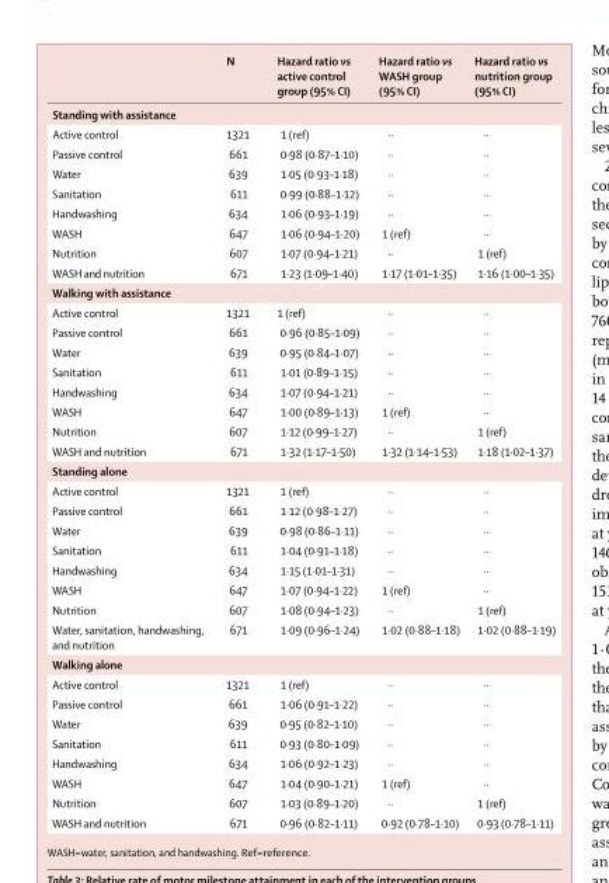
<table><thead><tr><td></td><td>N</td><td>Hazard ratio vs active control group (95% CI)</td><td>Hazard ratio vs WASH group (95% CI)</td><td>Hazard ratio vs nutrition group (95% CI)</td></tr></thead><tbody><tr><td colspan="5">Standing with assistance</td></tr><tr><td>Active control</td><td>1321</td><td>1 (ref)</td><td>··</td><td>··</td></tr><tr><td>Passive control</td><td>661</td><td>0·98 (0·87–1·10)</td><td>··</td><td>··</td></tr><tr><td>Water</td><td>639</td><td>1·05 (0·93–1·18)</td><td>··</td><td>··</td></tr><tr><td>Sanitation</td><td>611</td><td>0·99 (0·88–1·12)</td><td>··</td><td>··</td></tr><tr><td>Handwashing</td><td>634</td><td>1·06 (0·93–1·19)</td><td>··</td><td>··</td></tr><tr><td>WASH</td><td>647</td><td>1·06 (0·94–1·20)</td><td>1 (ref)</td><td>··</td></tr><tr><td>Nutrition</td><td>607</td><td>1·07 (0·94–1·21)</td><td>··</td><td>1 (ref)</td></tr><tr><td>WASH and nutrition</td><td>671</td><td>1·23 (1·09–1·40)</td><td>1·17 (1·01–1·35)</td><td>1·16 (1·00–1·35)</td></tr><tr><td colspan="5">Walking with assistance</td></tr><tr><td>Active control</td><td>1321</td><td>1 (ref)</td><td>··</td><td>··</td></tr><tr><td>Passive control</td><td>661</td><td>0·96 (0·85–1·09)</td><td>··</td><td>··</td></tr><tr><td>Water</td><td>639</td><td>0·95 (0·84–1·07)</td><td>··</td><td>··</td></tr><tr><td>Sanitation</td><td>611</td><td>1·01 (0·89–1·15)</td><td>··</td><td>··</td></tr><tr><td>Handwashing</td><td>634</td><td>1·07 (0·94–1·21)</td><td>··</td><td>··</td></tr><tr><td>WASH</td><td>647</td><td>1·00 (0·89–1·13)</td><td>1 (ref)</td><td>··</td></tr><tr><td>Nutrition</td><td>607</td><td>1·12 (0·99–1·27)</td><td>··</td><td>1 (ref)</td></tr><tr><td>WASH and nutrition</td><td>671</td><td>1·32 (1·17–1·50)</td><td>1·32 (1·14–1·53)</td><td>1·18 (1·02–1·37)</td></tr><tr><td colspan="5">Standing alone</td></tr><tr><td>Active control</td><td>1321</td><td>1 (ref)</td><td>··</td><td>··</td></tr><tr><td>Passive control</td><td>661</td><td>1·12 (0·98–1·27)</td><td>··</td><td>··</td></tr><tr><td>Water</td><td>639</td><td>0·98 (0·86–1·11)</td><td>··</td><td>··</td></tr><tr><td>Sanitation</td><td>611</td><td>1·04 (0·91–1·18)</td><td>··</td><td>··</td></tr><tr><td>Handwashing</td><td>634</td><td>1·15 (1·01–1·31)</td><td>··</td><td>··</td></tr><tr><td>WASH</td><td>647</td><td>1·07 (0·94–1·22)</td><td>1 (ref)</td><td>··</td></tr><tr><td>Nutrition</td><td>607</td><td>1·08 (0·94–1·23)</td><td>··</td><td>1 (ref)</td></tr><tr><td>Water, sanitation, handwashing, and nutrition</td><td>671</td><td>1·09 (0·96–1·24)</td><td>1·02 (0·88–1·18)</td><td>1·02 (0·88–1·19)</td></tr><tr><td colspan="5">Walking alone</td></tr><tr><td>Active control</td><td>1321</td><td>1 (ref)</td><td>··</td><td>··</td></tr><tr><td>Passive control</td><td>661</td><td>1·06 (0·91–1·22)</td><td>··</td><td>··</td></tr><tr><td>Water</td><td>639</td><td>0·95 (0·82–1·10)</td><td>··</td><td>··</td></tr><tr><td>Sanitation</td><td>611</td><td>0·93 (0·80–1·09)</td><td>··</td><td>··</td></tr><tr><td>Handwashing</td><td>634</td><td>1·06 (0·92–1·23)</td><td>··</td><td>··</td></tr><tr><td>WASH</td><td>647</td><td>1·04 (0·90–1·21)</td><td>1 (ref)</td><td>··</td></tr><tr><td>Nutrition</td><td>607</td><td>1·03 (0·89–1·20)</td><td>··</td><td>1 (ref)</td></tr><tr><td>WASH and nutrition</td><td>671</td><td>0·96 (0·82–1·11)</td><td>0·92 (0·78–1·10)</td><td>0·93 (0·78–1·11)</td></tr></tbody></table>